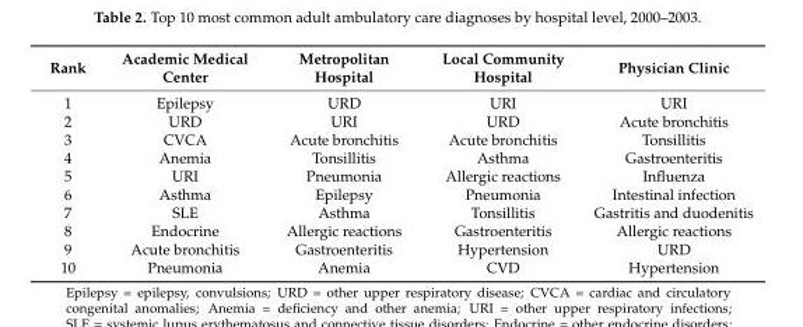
<table><thead><tr><td>Rank</td><td>Academic Medical Center</td><td>Metropolitan Hospital</td><td>Local Community Hospital</td><td>Physician Clinic</td></tr></thead><tbody><tr><td>1</td><td>Epilepsy</td><td>URD</td><td>URI</td><td>URI</td></tr><tr><td>2</td><td>URD</td><td>URI</td><td>URD</td><td>Acute bronchitis</td></tr><tr><td>3</td><td>CVCA</td><td>Acute bronchitis</td><td>Acute bronchitis</td><td>Tonsillitis</td></tr><tr><td>4</td><td>Anemia</td><td>Tonsillitis</td><td>Asthma</td><td>Gastroenteritis</td></tr><tr><td>5</td><td>URI</td><td>Pneumonia</td><td>Allergic reactions</td><td>Influenza</td></tr><tr><td>6</td><td>Asthma</td><td>Epilepsy</td><td>Pneumonia</td><td>Intestinal infection</td></tr><tr><td>7</td><td>SLE</td><td>Asthma</td><td>Tonsillitis</td><td>Gastritis and duodenitis</td></tr><tr><td>8</td><td>Endocrine</td><td>Allergic reactions</td><td>Gastroenteritis</td><td>Allergic reactions</td></tr><tr><td>9</td><td>Acute bronchitis</td><td>Gastroenteritis</td><td>Hypertension</td><td>URD</td></tr><tr><td>10</td><td>Pneumonia</td><td>Anemia</td><td>CVD</td><td>Hypertension</td></tr></tbody></table>